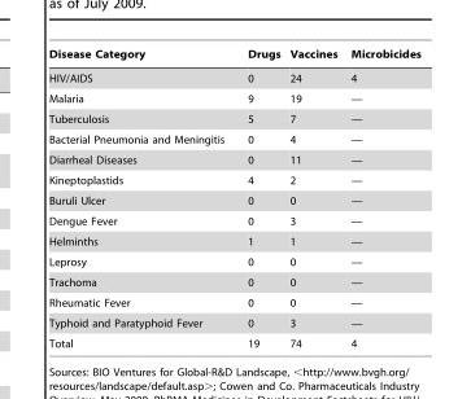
<table><thead><tr><td>Disease Category</td><td>Drugs</td><td>Vaccines</td><td>Microbicides</td></tr></thead><tbody><tr><td>HIV/AIDS</td><td>0</td><td>24</td><td>4</td></tr><tr><td>Malaria</td><td>9</td><td>19</td><td>—</td></tr><tr><td>Tuberculosis</td><td>5</td><td>7</td><td>—</td></tr><tr><td>Bacterial Pneumonia and Meningitis</td><td>0</td><td>4</td><td>—</td></tr><tr><td>Diarrheal Diseases</td><td>0</td><td>11</td><td>—</td></tr><tr><td>Kineptoplastids</td><td>4</td><td>2</td><td>—</td></tr><tr><td>Buruli Ulcer</td><td>0</td><td>0</td><td>—</td></tr><tr><td>Dengue Fever</td><td>0</td><td>3</td><td>—</td></tr><tr><td>Helminths</td><td>1</td><td>1</td><td>—</td></tr><tr><td>Leprosy</td><td>0</td><td>0</td><td>—</td></tr><tr><td>Trachoma</td><td>0</td><td>0</td><td>—</td></tr><tr><td>Rheumatic Fever</td><td>0</td><td>0</td><td>—</td></tr><tr><td>Typhoid and Paratyphoid Fever</td><td>0</td><td>3</td><td>—</td></tr><tr><td>Total</td><td>19</td><td>74</td><td>4</td></tr></tbody></table>